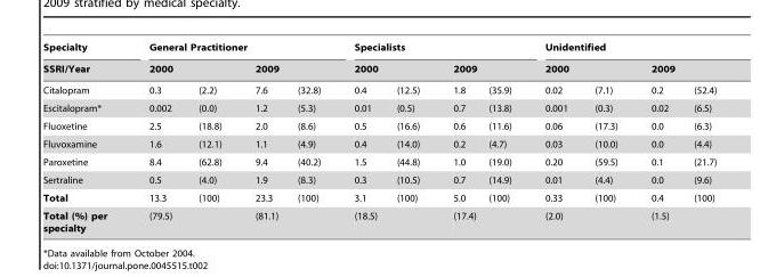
<table><thead><tr><td rowspan="3">Specialty SSRI/Year Citalopram</td><td colspan="4">General Practitioner</td><td colspan="4">Specialists</td><td colspan="4">Unidentified</td></tr><tr><td colspan="2">2000</td><td colspan="2">2009</td><td colspan="2">2000</td><td colspan="2">2009</td><td colspan="2">2000</td><td colspan="2">2009</td></tr><tr><td>0.3</td><td>(2.2)</td><td>7.6</td><td>(32.8)</td><td>0.4</td><td>(12.5)</td><td>1.8</td><td>(35.9)</td><td>0.02</td><td>(7.1)</td><td>0.2</td><td>(52.4)</td></tr></thead><tbody><tr><td>Escitalopram*</td><td>0.002</td><td>(0.0)</td><td>1.2</td><td>(5.3)</td><td>0.01</td><td>(0.5)</td><td>0.7</td><td>(13.8)</td><td>0.001</td><td>(0.3)</td><td>0.02</td><td>(6.5)</td></tr><tr><td>Fluoxetine</td><td>2.5</td><td>(18.8)</td><td>2.0</td><td>(8.6)</td><td>0.5</td><td>(16.6)</td><td>0.6</td><td>(11.6)</td><td>0.06</td><td>(17.3)</td><td>0.0</td><td>(6.3)</td></tr><tr><td>Fluvoxamine</td><td>1.6</td><td>(12.1)</td><td>1.1</td><td>(4.9)</td><td>0.4</td><td>(14.0)</td><td>0.2</td><td>(4.7)</td><td>0.03</td><td>(10.0)</td><td>0.0</td><td>(4.4)</td></tr><tr><td>Paroxetine</td><td>8.4</td><td>(62.8)</td><td>9.4</td><td>(40.2)</td><td>1.5</td><td>(44.8)</td><td>1.0</td><td>(19.0)</td><td>0.20</td><td>(59.5)</td><td>0.1</td><td>(21.7)</td></tr><tr><td>Sertraline</td><td>0.5</td><td>(4.0)</td><td>1.9</td><td>(8.3)</td><td>0.3</td><td>(10.5)</td><td>0.7</td><td>(14.9)</td><td>0.01</td><td>(4.4)</td><td>0.0</td><td>(9.6)</td></tr><tr><td>Total</td><td>13.3</td><td>(100)</td><td>23.3</td><td>(100)</td><td>3.1</td><td>(100)</td><td>5.0</td><td>(100)</td><td>0.33</td><td>(100)</td><td>0.4</td><td>(100)</td></tr><tr><td>Total (%) per specialty</td><td colspan="2">(79.5)</td><td colspan="2">(81.1)</td><td colspan="2">(18.5)</td><td colspan="2">(17.4)</td><td colspan="2">(2.0)</td><td colspan="2">(1.5)</td></tr></tbody></table>